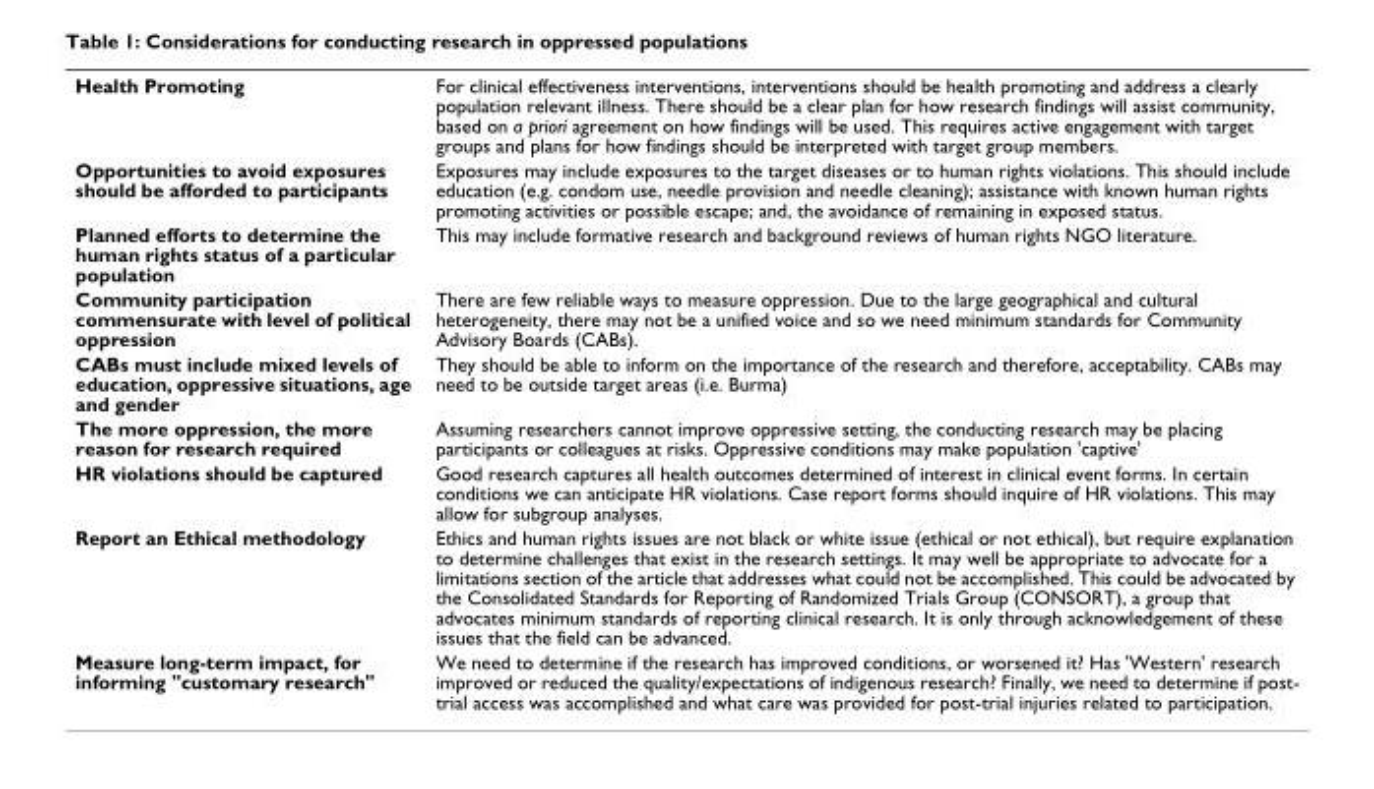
<table><tbody><tr><td>Health Promoting</td><td>For clinical effectiveness interventions, interventions should be health promoting and address a clearly population relevant illness. There should be a clear plan for how research findings will assist community, based on a priori agreement on how findings will be used. This requires active engagement with target groups and plans for how findings should be interpreted with target group members.</td></tr><tr><td>Opportunities to avoid exposures should be afforded to participants</td><td>Exposures may include exposures to the target diseases or to human rights violations. This should include education (e.g. condom use, needle provision and needle cleaning); assistance with known human rights promoting activities or possible escape; and, the avoidance of remaining in exposed status.</td></tr><tr><td>Planned efforts to determine the human rights status of a particular population</td><td>This may include formative research and background reviews of human rights NGO literature.</td></tr><tr><td>Community participation commensurate with level of political oppression</td><td>There are few reliable ways to measure oppression. Due to the large geographical and cultural heterogeneity, there may not be a unified voice and so we need minimum standards for Community Advisory Boards (CABs).</td></tr><tr><td>CABs must include mixed levels of education, oppressive situations, age and gender</td><td>They should be able to inform on the importance of the research and therefore, acceptability. CABs may need to be outside target areas (i.e. Burma)</td></tr><tr><td>The more oppression, the more reason for research required</td><td>Assuming researchers cannot improve oppressive setting, the conducting research may be placing participants or colleagues at risks. Oppressive conditions may make population &#x27;captive&#x27;</td></tr><tr><td>HR violations should be captured</td><td>Good research captures all health outcomes determined of interest in clinical event forms. In certain conditions we can anticipate HR violations. Case report forms should inquire of HR violations. This may allow for subgroup analyses.</td></tr><tr><td>Report an Ethical methodology</td><td>Ethics and human rights issues are not black or white issue (ethical or not ethical), but require explanation to determine challenges that exist in the research settings. It may well be appropriate to advocate for a limitations section of the article that addresses what could not be accomplished. This could be advocated by the Consolidated Standards for Reporting of Randomized Trials Group (CONSORT), a group that advocates minimum standards of reporting clinical research. It is only through acknowledgement of these issues that the field can be advanced.</td></tr><tr><td>Measure long-term impact, for informing &quot;customary research&quot;</td><td>We need to determine if the research has improved conditions, or worsened it? Has &#x27;Western&#x27; research improved or reduced the quality/expectations of indigenous research? Finally, we need to determine if post- trial access was accomplished and what care was provided for post-trial injuries related to participation.</td></tr></tbody></table>